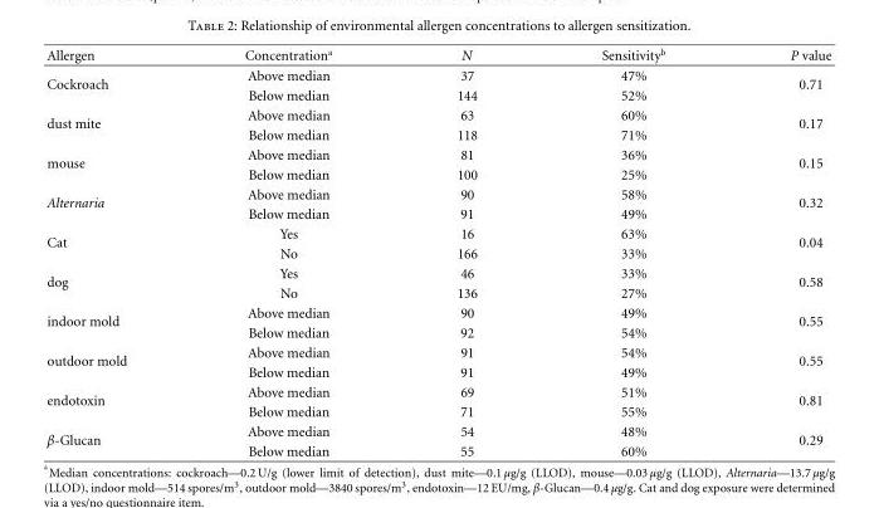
<table><thead><tr><td>Allergen</td><td>Concentration<sup>a</sup></td><td>N</td><td>Sensitivity<sup>b</sup></td><td>P value</td></tr></thead><tbody><tr><td rowspan="2">Cockroach</td><td>Above median</td><td>37</td><td>47%</td><td rowspan="2">0.71</td></tr><tr><td>Below median</td><td>144</td><td>52%</td></tr><tr><td rowspan="2">dust mite</td><td>Above median</td><td>63</td><td>60%</td><td rowspan="2">0.17</td></tr><tr><td>Below median</td><td>118</td><td>71%</td></tr><tr><td rowspan="2">mouse</td><td>Above median</td><td>81</td><td>36%</td><td rowspan="2">0.15</td></tr><tr><td>Below median</td><td>100</td><td>25%</td></tr><tr><td rowspan="2">Alternaria</td><td>Above median</td><td>90</td><td>58%</td><td rowspan="2">0.32</td></tr><tr><td>Below median</td><td>91</td><td>49%</td></tr><tr><td rowspan="2">Cat</td><td>Yes</td><td>16</td><td>63%</td><td rowspan="2">0.04</td></tr><tr><td>No</td><td>166</td><td>33%</td></tr><tr><td rowspan="2">dog</td><td>Yes</td><td>46</td><td>33%</td><td rowspan="2">0.58</td></tr><tr><td>No</td><td>136</td><td>27%</td></tr><tr><td rowspan="2">indoor mold</td><td>Above median</td><td>90</td><td>49%</td><td rowspan="2">0.55</td></tr><tr><td>Below median</td><td>92</td><td>54%</td></tr><tr><td rowspan="2">outdoor mold</td><td>Above median</td><td>91</td><td>54%</td><td rowspan="2">0.55</td></tr><tr><td>Below median</td><td>91</td><td>49%</td></tr><tr><td rowspan="2">endotoxin</td><td>Above median</td><td>69</td><td>51%</td><td rowspan="2">0.81</td></tr><tr><td>Below median</td><td>71</td><td>55%</td></tr><tr><td rowspan="2">β-Glucan</td><td>Above median</td><td>54</td><td>48%</td><td rowspan="2">0.29</td></tr><tr><td>Below median</td><td>55</td><td>60%</td></tr></tbody></table>